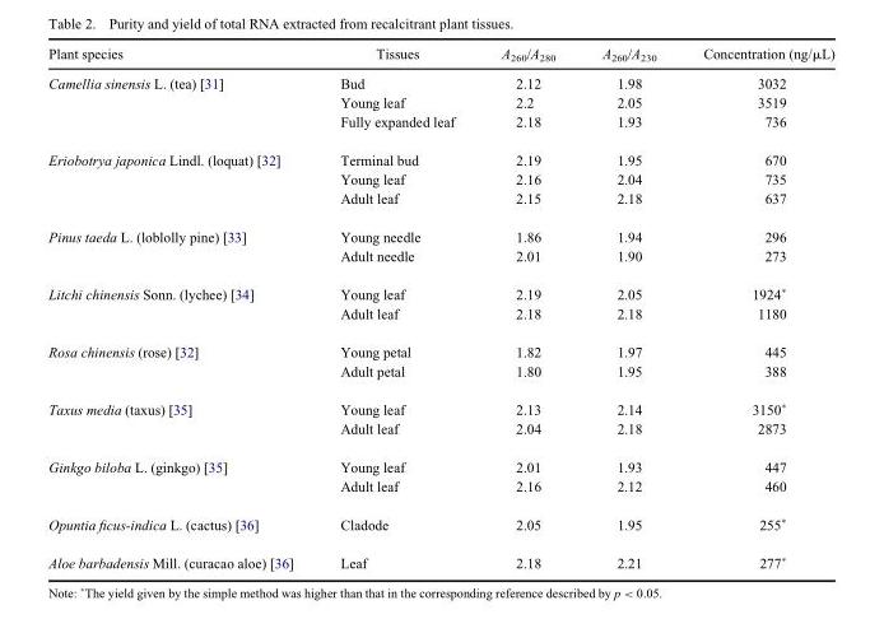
<table><thead><tr><td>Plant species</td><td>Tissues</td><td>A<sub>260</sub>/A<sub>280</sub></td><td>A<sub>260</sub>/A<sub>230</sub></td><td>Concentration (ng/μL)</td></tr></thead><tbody><tr><td rowspan="3">Camellia sinensis L. (tea) [31]</td><td>Bud</td><td>2.12</td><td>1.98</td><td>3032</td></tr><tr><td>Young leaf</td><td>2.2</td><td>2.05</td><td>3519</td></tr><tr><td>Fully expanded leaf</td><td>2.18</td><td>1.93</td><td>736</td></tr><tr><td rowspan="3">Eriobotrya japonica Lindl. (loquat) [32]</td><td>Terminal bud</td><td>2.19</td><td>1.95</td><td>670</td></tr><tr><td>Young leaf</td><td>2.16</td><td>2.04</td><td>735</td></tr><tr><td>Adult leaf</td><td>2.15</td><td>2.18</td><td>637</td></tr><tr><td rowspan="2">Pinus taeda L. (loblolly pine) [33]</td><td>Young needle</td><td>1.86</td><td>1.94</td><td>296</td></tr><tr><td>Adult needle</td><td>2.01</td><td>1.90</td><td>273</td></tr><tr><td rowspan="2">Litchi chinensis Sonn. (lychee) [34]</td><td>Young leaf</td><td>2.19</td><td>2.05</td><td>1924*</td></tr><tr><td>Adult leaf</td><td>2.18</td><td>2.18</td><td>1180</td></tr><tr><td rowspan="2">Rosa chinensis (rose) [32]</td><td>Young petal</td><td>1.82</td><td>1.97</td><td>445</td></tr><tr><td>Adult petal</td><td>1.80</td><td>1.95</td><td>388</td></tr><tr><td rowspan="2">Taxus media (taxus) [35]</td><td>Young leaf</td><td>2.13</td><td>2.14</td><td>3150*</td></tr><tr><td>Adult leaf</td><td>2.04</td><td>2.18</td><td>2873</td></tr><tr><td rowspan="2">Ginkgo biloba L. (ginkgo) [35]</td><td>Young leaf</td><td>2.01</td><td>1.93</td><td>447</td></tr><tr><td>Adult leaf</td><td>2.16</td><td>2.12</td><td>460</td></tr><tr><td>Opuntia ficus-indica L. (cactus) [36]</td><td>Cladode</td><td>2.05</td><td>1.95</td><td>255*</td></tr><tr><td>Aloe barbadensis Mill. (curacao aloe) [36]</td><td>Leaf</td><td>2.18</td><td>2.21</td><td>277*</td></tr></tbody></table>